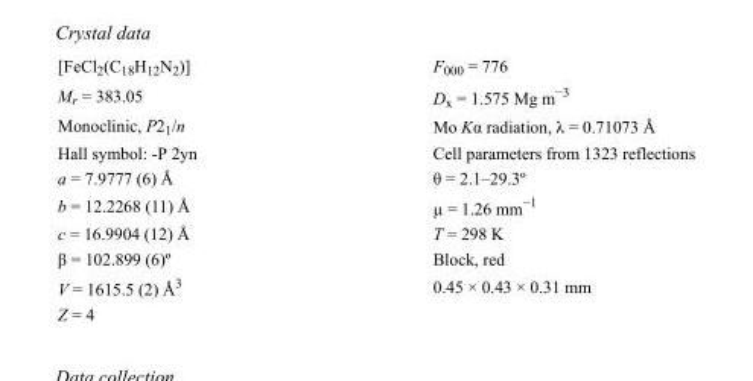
<table><tbody><tr><td>[FeCl<sub>2</sub>(C<sub>18</sub>H<sub>12</sub>N<sub>2</sub>)]</td><td>F000 = 776</td></tr><tr><td>M<sub>r</sub> = 383.05</td><td>D<sub>x</sub> = 1.575 Mg m<sup>−3</sup></td></tr><tr><td>Monoclinic, P2<sub>1</sub>/n</td><td>Mo Kα radiation, λ = 0.71073 Å</td></tr><tr><td>Hall symbol: -P 2yn</td><td>Cell parameters from 1323 reflections</td></tr><tr><td>a = 7.9777 (6) Å</td><td>θ = 2.1–29.3º</td></tr><tr><td>b = 12.2268 (11) Å</td><td>µ = 1.26 mm<sup>−1</sup></td></tr><tr><td>c = 16.9904 (12) Å</td><td>T = 298 K</td></tr><tr><td>β = 102.899 (6)º</td><td>Block, red</td></tr><tr><td>V = 1615.5 (2) Å<sup>3</sup></td><td>0.45 × 0.43 × 0.31 mm</td></tr><tr><td>Z = 4</td><td></td></tr></tbody></table>